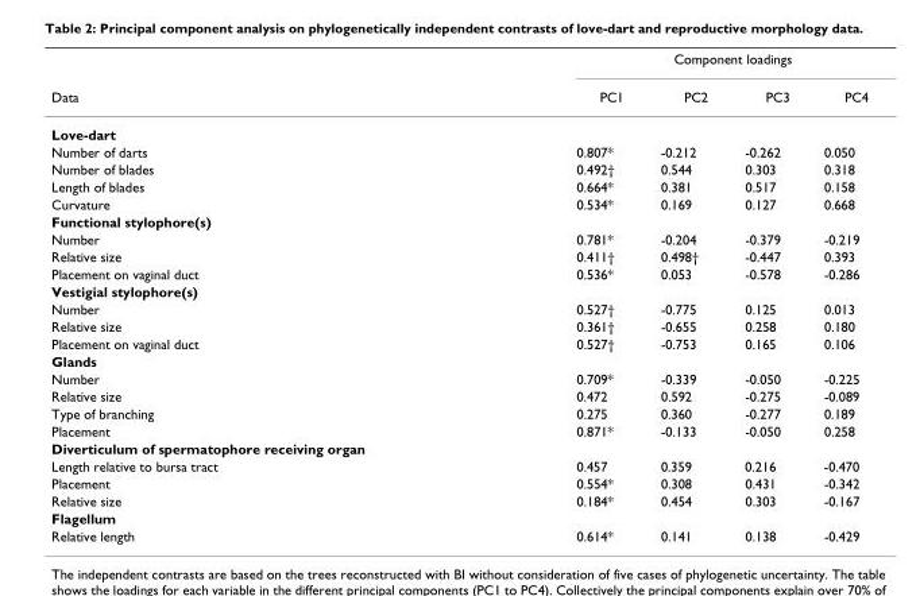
<table><thead><tr><td rowspan="2">Data</td><td colspan="4">Component loadings</td></tr><tr><td>PC1</td><td>PC2</td><td>PC3</td><td>PC4</td></tr></thead><tbody><tr><td colspan="5">Love-dart</td></tr><tr><td>Number of darts</td><td>0.807*</td><td>-0.212</td><td>-0.262</td><td>0.050</td></tr><tr><td>Number of blades</td><td>0.492†</td><td>0.544</td><td>0.303</td><td>0.318</td></tr><tr><td>Length of blades</td><td>0.664*</td><td>0.381</td><td>0.517</td><td>0.158</td></tr><tr><td>Curvature</td><td>0.534*</td><td>0.169</td><td>0.127</td><td>0.668</td></tr><tr><td colspan="5">Functional stylophore(s)</td></tr><tr><td>Number</td><td>0.781*</td><td>-0.204</td><td>-0.379</td><td>-0.219</td></tr><tr><td>Relative size</td><td>0.411†</td><td>0.498†</td><td>-0.447</td><td>0.393</td></tr><tr><td>Placement on vaginal duct</td><td>0.536*</td><td>0.053</td><td>-0.578</td><td>-0.286</td></tr><tr><td colspan="5">Vestigial stylophore(s)</td></tr><tr><td>Number</td><td>0.527†</td><td>-0.775</td><td>0.125</td><td>0.013</td></tr><tr><td>Relative size</td><td>0.361†</td><td>-0.655</td><td>0.258</td><td>0.180</td></tr><tr><td>Placement on vaginal duct</td><td>0.527†</td><td>-0.753</td><td>0.165</td><td>0.106</td></tr><tr><td colspan="5">Glands</td></tr><tr><td>Number</td><td>0.709*</td><td>-0.339</td><td>-0.050</td><td>-0.225</td></tr><tr><td>Relative size</td><td>0.472</td><td>0.592</td><td>-0.275</td><td>-0.089</td></tr><tr><td>Type of branching</td><td>0.275</td><td>0.360</td><td>-0.277</td><td>0.189</td></tr><tr><td>Placement</td><td>0.871*</td><td>-0.133</td><td>-0.050</td><td>0.258</td></tr><tr><td colspan="5">Diverticulum of spermatophore receiving organ</td></tr><tr><td>Length relative to bursa tract</td><td>0.457</td><td>0.359</td><td>0.216</td><td>-0.470</td></tr><tr><td>Placement</td><td>0.554*</td><td>0.308</td><td>0.431</td><td>-0.342</td></tr><tr><td>Relative size</td><td>0.184*</td><td>0.454</td><td>0.303</td><td>-0.167</td></tr><tr><td colspan="5">Flagellum</td></tr><tr><td>Relative length</td><td>0.614*</td><td>0.141</td><td>0.138</td><td>-0.429</td></tr></tbody></table>